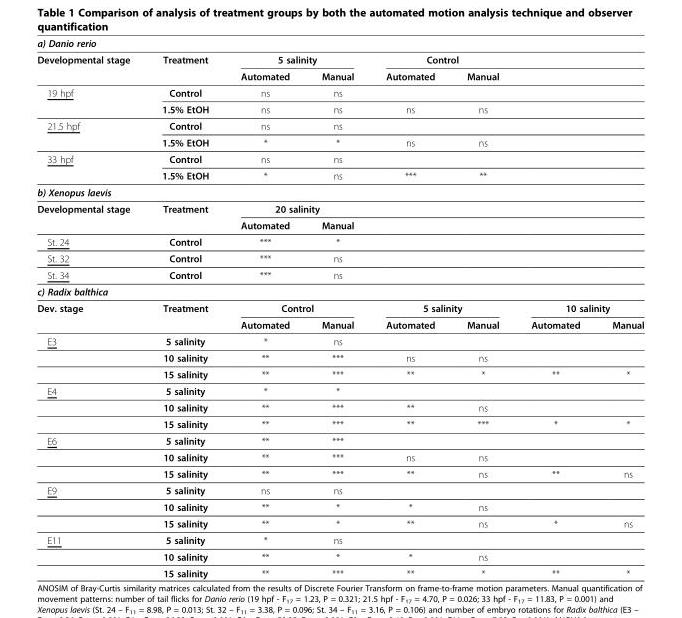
<table><thead><tr><td colspan="8">a) Danio rerio</td></tr><tr><td>Developmental stage</td><td>Treatment</td><td colspan="2">5 salinity</td><td colspan="2">Control</td><td rowspan="2"></td><td rowspan="2"></td></tr><tr><td colspan="2"></td><td>Automated</td><td>Manual</td><td>Automated</td><td>Manual</td></tr></thead><tbody><tr><td rowspan="2">19 hpf</td><td>Control</td><td>ns</td><td>ns</td><td></td><td></td><td></td><td></td></tr><tr><td>1.5% EtOH</td><td>ns</td><td>ns</td><td>ns</td><td>ns</td><td></td><td></td></tr><tr><td rowspan="2">21.5 hpf</td><td>Control</td><td>ns</td><td>ns</td><td></td><td></td><td></td><td></td></tr><tr><td>1.5% EtOH</td><td>*</td><td>*</td><td>ns</td><td>ns</td><td></td><td></td></tr><tr><td rowspan="2">33 hpf</td><td>Control</td><td>ns</td><td>ns</td><td></td><td></td><td></td><td></td></tr><tr><td>1.5% EtOH</td><td>*</td><td>ns</td><td>***</td><td>**</td><td></td><td></td></tr><tr><td colspan="8">b) Xenopus laevis</td></tr><tr><td rowspan="2">Developmental stage</td><td>Treatment</td><td colspan="2">20 salinity</td><td></td><td></td><td></td><td></td></tr><tr><td></td><td>Automated</td><td>Manual</td><td></td><td></td><td></td><td></td></tr><tr><td>St. 24</td><td>Control</td><td>***</td><td>*</td><td></td><td></td><td></td><td></td></tr><tr><td>St. 32</td><td>Control</td><td>***</td><td>ns</td><td></td><td></td><td></td><td></td></tr><tr><td>St. 34</td><td>Control</td><td>***</td><td>ns</td><td></td><td></td><td></td><td></td></tr><tr><td colspan="8">c) Radix balthica</td></tr><tr><td rowspan="2">Dev. stage</td><td>Treatment</td><td colspan="2">Control</td><td colspan="2">5 salinity</td><td colspan="2">10 salinity</td></tr><tr><td></td><td>Automated</td><td>Manual</td><td>Automated</td><td>Manual</td><td>Automated</td><td>Manual</td></tr><tr><td rowspan="3">E3</td><td>5 salinity</td><td>*</td><td>ns</td><td></td><td></td><td></td><td></td></tr><tr><td>10 salinity</td><td>**</td><td>***</td><td>ns</td><td>ns</td><td></td><td></td></tr><tr><td>15 salinity</td><td>**</td><td>***</td><td>**</td><td>*</td><td>**</td><td>*</td></tr><tr><td rowspan="3">E4</td><td>5 salinity</td><td>*</td><td>*</td><td></td><td></td><td></td><td></td></tr><tr><td>10 salinity</td><td>**</td><td>***</td><td>**</td><td>ns</td><td></td><td></td></tr><tr><td>15 salinity</td><td>**</td><td>***</td><td>**</td><td>***</td><td>*</td><td>*</td></tr><tr><td rowspan="3">E6</td><td>5 salinity</td><td>**</td><td>***</td><td></td><td></td><td></td><td></td></tr><tr><td>10 salinity</td><td>**</td><td>***</td><td>ns</td><td>ns</td><td></td><td></td></tr><tr><td>15 salinity</td><td>**</td><td>***</td><td>**</td><td>ns</td><td>**</td><td>ns</td></tr><tr><td rowspan="3">E9</td><td>5 salinity</td><td>ns</td><td>ns</td><td></td><td></td><td></td><td></td></tr><tr><td>10 salinity</td><td>**</td><td>*</td><td>*</td><td>ns</td><td></td><td></td></tr><tr><td>15 salinity</td><td>**</td><td>*</td><td>**</td><td>ns</td><td>*</td><td>ns</td></tr><tr><td rowspan="3">E11</td><td>5 salinity</td><td>*</td><td>ns</td><td></td><td></td><td></td><td></td></tr><tr><td>10 salinity</td><td>**</td><td>*</td><td>*</td><td>ns</td><td></td><td></td></tr><tr><td>15 salinity</td><td>**</td><td>***</td><td>**</td><td>*</td><td>**</td><td>*</td></tr></tbody></table>